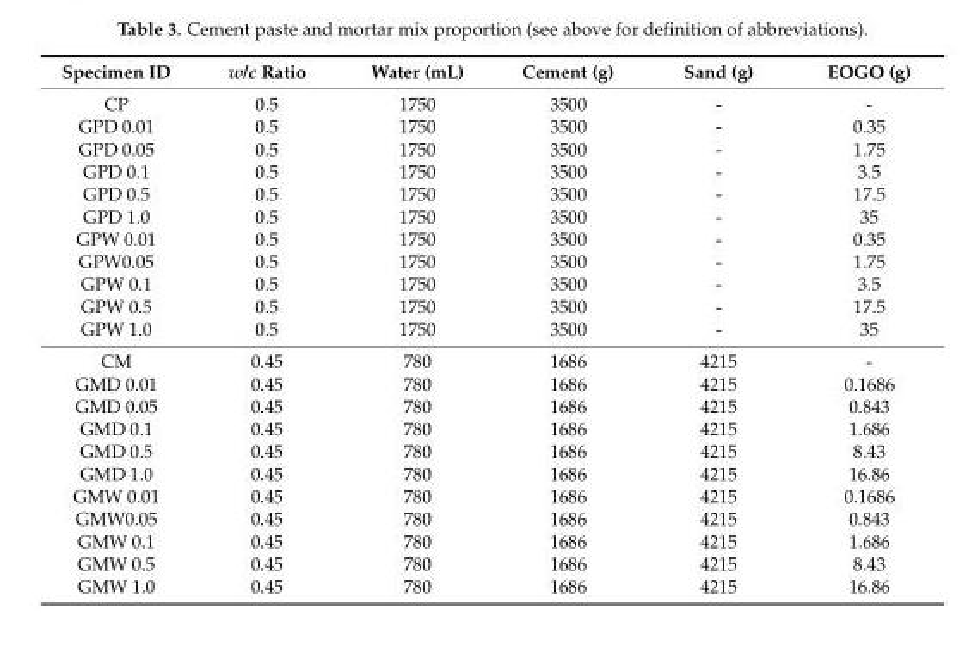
<table><thead><tr><td>Specimen ID</td><td>w/c Ratio</td><td>Water (mL)</td><td>Cement (g)</td><td>Sand (g)</td><td>EOGO (g)</td></tr></thead><tbody><tr><td>CP</td><td>0.5</td><td>1750</td><td>3500</td><td>-</td><td>-</td></tr><tr><td>GPD 0.01</td><td>0.5</td><td>1750</td><td>3500</td><td>-</td><td>0.35</td></tr><tr><td>GPD 0.05</td><td>0.5</td><td>1750</td><td>3500</td><td>-</td><td>1.75</td></tr><tr><td>GPD 0.1</td><td>0.5</td><td>1750</td><td>3500</td><td>-</td><td>3.5</td></tr><tr><td>GPD 0.5</td><td>0.5</td><td>1750</td><td>3500</td><td>-</td><td>17.5</td></tr><tr><td>GPD 1.0</td><td>0.5</td><td>1750</td><td>3500</td><td>-</td><td>35</td></tr><tr><td>GPW 0.01</td><td>0.5</td><td>1750</td><td>3500</td><td>-</td><td>0.35</td></tr><tr><td>GPW0.05</td><td>0.5</td><td>1750</td><td>3500</td><td>-</td><td>1.75</td></tr><tr><td>GPW 0.1</td><td>0.5</td><td>1750</td><td>3500</td><td>-</td><td>3.5</td></tr><tr><td>GPW 0.5</td><td>0.5</td><td>1750</td><td>3500</td><td>-</td><td>17.5</td></tr><tr><td>GPW 1.0</td><td>0.5</td><td>1750</td><td>3500</td><td>-</td><td>35</td></tr><tr><td>CM</td><td>0.45</td><td>780</td><td>1686</td><td>4215</td><td>-</td></tr><tr><td>GMD 0.01</td><td>0.45</td><td>780</td><td>1686</td><td>4215</td><td>0.1686</td></tr><tr><td>GMD 0.05</td><td>0.45</td><td>780</td><td>1686</td><td>4215</td><td>0.843</td></tr><tr><td>GMD 0.1</td><td>0.45</td><td>780</td><td>1686</td><td>4215</td><td>1.686</td></tr><tr><td>GMD 0.5</td><td>0.45</td><td>780</td><td>1686</td><td>4215</td><td>8.43</td></tr><tr><td>GMD 1.0</td><td>0.45</td><td>780</td><td>1686</td><td>4215</td><td>16.86</td></tr><tr><td>GMW 0.01</td><td>0.45</td><td>780</td><td>1686</td><td>4215</td><td>0.1686</td></tr><tr><td>GMW0.05</td><td>0.45</td><td>780</td><td>1686</td><td>4215</td><td>0.843</td></tr><tr><td>GMW 0.1</td><td>0.45</td><td>780</td><td>1686</td><td>4215</td><td>1.686</td></tr><tr><td>GMW 0.5</td><td>0.45</td><td>780</td><td>1686</td><td>4215</td><td>8.43</td></tr><tr><td>GMW 1.0</td><td>0.45</td><td>780</td><td>1686</td><td>4215</td><td>16.86</td></tr></tbody></table>